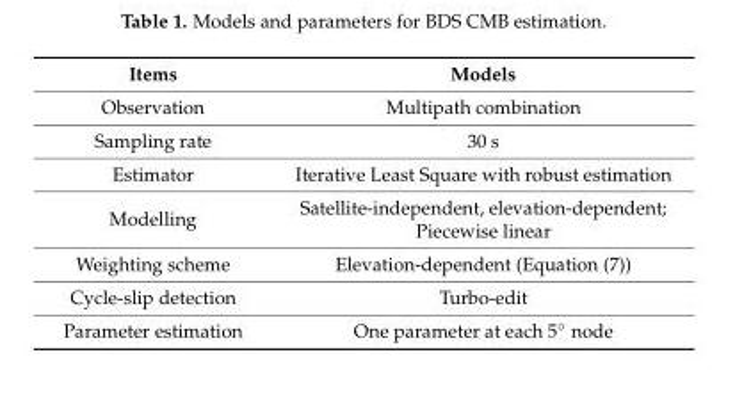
<table><thead><tr><td>Items</td><td>Models</td></tr></thead><tbody><tr><td>Observation</td><td>Multipath combination</td></tr><tr><td>Sampling rate</td><td>30 s</td></tr><tr><td>Estimator</td><td>Iterative Least Square with robust estimation</td></tr><tr><td rowspan="2">Modelling</td><td>Satellite-independent, elevation-dependent;</td></tr><tr><td>Piecewise linear</td></tr><tr><td>Weighting scheme</td><td>Elevation-dependent (Equation (7))</td></tr><tr><td>Cycle-slip detection</td><td>Turbo-edit</td></tr><tr><td>Parameter estimation</td><td>One parameter at each 5◦ node</td></tr></tbody></table>